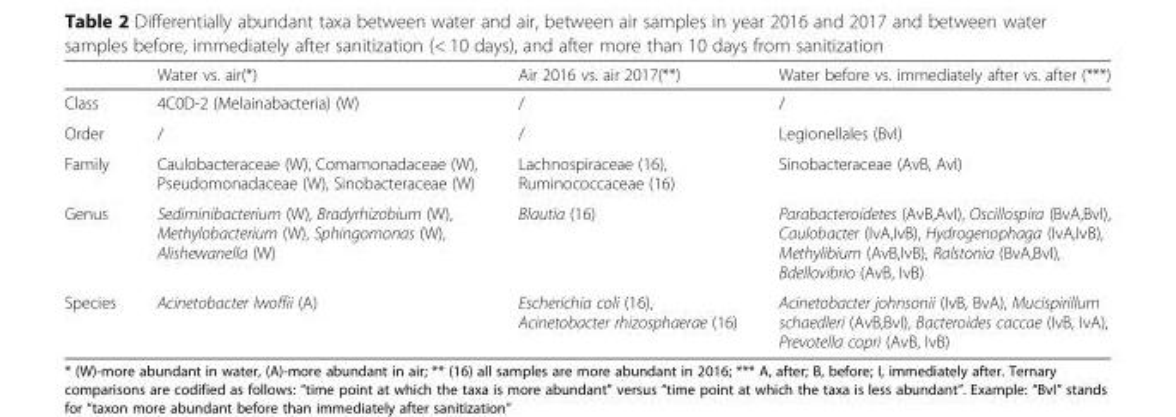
<table><thead><tr><td></td><td>Water vs. air(*)</td><td>Air 2016 vs. air 2017(**)</td><td>Water before vs. immediately after vs. after (***)</td></tr></thead><tbody><tr><td>Class</td><td>4C0D-2 (Melainabacteria) (W)</td><td>/</td><td>/</td></tr><tr><td>Order</td><td>/</td><td>/</td><td>Legionellales (BvI)</td></tr><tr><td>Family</td><td>Caulobacteraceae (W), Comamonadaceae (W), Pseudomonadaceae (W), Sinobacteraceae (W)</td><td>Lachnospiraceae (16), Ruminococcaceae (16)</td><td>Sinobacteraceae (AvB, AvI)</td></tr><tr><td>Genus</td><td>Sediminibacterium (W), Bradyrhizobium (W), Methylobacterium (W), Sphingomonas (W), Alishewanella (W)</td><td>Blautia (16)</td><td>Parabacteroidetes (AvB,AvI), Oscillospira (BvA,BvI), Caulobacter (IvA,IvB), Hydrogenophaga (IvA,IvB), Methylibium (AvB,IvB), Ralstonia (BvA,BvI), Bdellovibrio (AvB, IvB)</td></tr><tr><td>Species</td><td>Acinetobacter lwoffii (A)</td><td>Escherichia coli (16), Acinetobacter rhizosphaerae (16)</td><td>Acinetobacter johnsonii (IvB, BvA), Mucispirillum schaedleri (AvB,BvI), Bacteroides caccae (IvB, IvA), Prevotella copri (AvB, IvB)</td></tr></tbody></table>